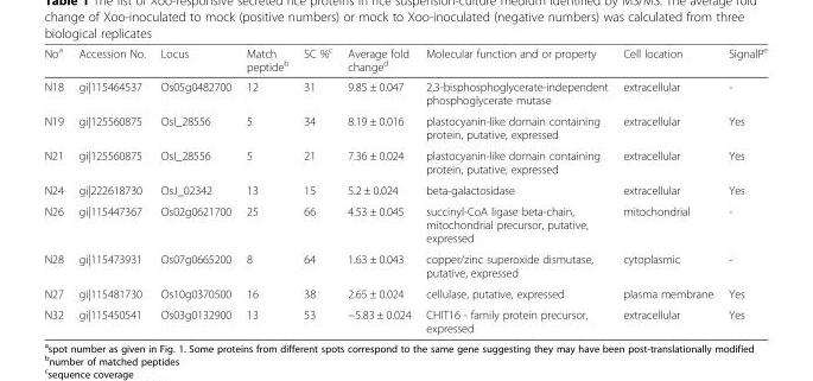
<table><thead><tr><td>No<sup>a</sup></td><td>Accession No.</td><td>Locus</td><td>Match peptide<sup>b</sup></td><td>SC %<sup>c</sup></td><td>Average fold change<sup>d</sup></td><td>Molecular function and or property</td><td>Cell location</td><td>SignalP<sup>e</sup></td></tr></thead><tbody><tr><td>N18</td><td>gi|115464537</td><td>Os05g0482700</td><td>12</td><td>31</td><td>9.85 ± 0.047</td><td>2,3-bisphosphoglycerate-independent phosphoglycerate mutase</td><td>extracellular</td><td>-</td></tr><tr><td>N19</td><td>gi|125560875</td><td>OsI_28556</td><td>5</td><td>34</td><td>8.19 ± 0.016</td><td>plastocyanin-like domain containing protein, putative, expressed</td><td>extracellular</td><td>Yes</td></tr><tr><td>N21</td><td>gi|125560875</td><td>OsI_28556</td><td>5</td><td>21</td><td>7.36 ± 0.024</td><td>plastocyanin-like domain containing protein, putative, expressed</td><td>extracellular</td><td>Yes</td></tr><tr><td>N24</td><td>gi|222618730</td><td>OsJ_02342</td><td>13</td><td>15</td><td>5.2 ± 0.024</td><td>beta-galactosidase</td><td>extracellular</td><td>Yes</td></tr><tr><td>N26</td><td>gi|115447367</td><td>Os02g0621700</td><td>25</td><td>66</td><td>4.53 ± 0.045</td><td>succinyl-CoA ligase beta-chain, mitochondrial precursor, putative, expressed</td><td>mitochondrial</td><td>-</td></tr><tr><td>N28</td><td>gi|115473931</td><td>Os07g0665200</td><td>8</td><td>64</td><td>1.63 ± 0.043</td><td>copper/zinc superoxide dismutase, putative, expressed</td><td>cytoplasmic</td><td>-</td></tr><tr><td>N27</td><td>gi|115481730</td><td>Os10g0370500</td><td>16</td><td>38</td><td>2.65 ± 0.024</td><td>cellulase, putative, expressed</td><td>plasma membrane</td><td>Yes</td></tr><tr><td>N32</td><td>gi|115450541</td><td>Os03g0132900</td><td>13</td><td>53</td><td>−5.83 ± 0.024</td><td>CHIT16 - family protein precursor, expressed</td><td>extracellular</td><td>Yes</td></tr></tbody></table>